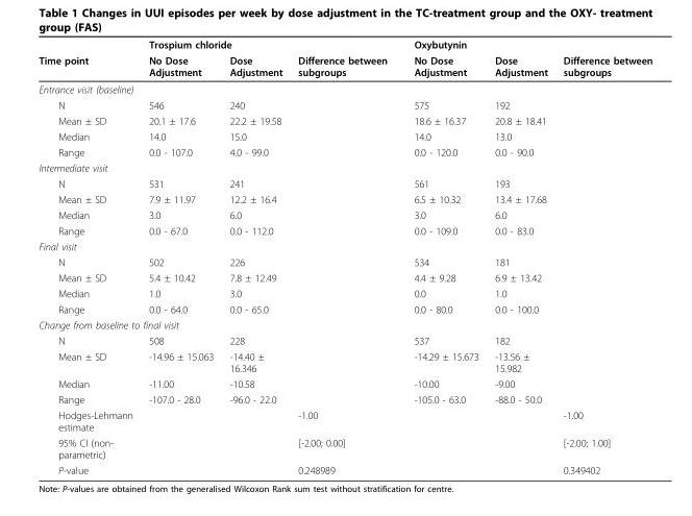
<table><thead><tr><td rowspan="2">Time point</td><td colspan="3">Trospium chloride</td><td colspan="3">Oxybutynin</td></tr><tr><td>No Dose Adjustment</td><td>Dose Adjustment</td><td>Difference between subgroups</td><td>No Dose Adjustment</td><td>Dose Adjustment</td><td>Difference between subgroups</td></tr></thead><tbody><tr><td colspan="7">Entrance visit (baseline)</td></tr><tr><td>N</td><td>546</td><td>240</td><td></td><td>575</td><td>192</td><td></td></tr><tr><td>Mean ± SD</td><td>20.1 ± 17.6</td><td>22.2 ± 19.58</td><td></td><td>18.6 ± 16.37</td><td>20.8 ± 18.41</td><td></td></tr><tr><td>Median</td><td>14.0</td><td>15.0</td><td></td><td>14.0</td><td>13.0</td><td></td></tr><tr><td>Range</td><td>0.0 - 107.0</td><td>4.0 - 99.0</td><td></td><td>0.0 - 120.0</td><td>0.0 - 90.0</td><td></td></tr><tr><td colspan="7">Intermediate visit</td></tr><tr><td>N</td><td>531</td><td>241</td><td></td><td>561</td><td>193</td><td></td></tr><tr><td>Mean ± SD</td><td>7.9 ± 11.97</td><td>12.2 ± 16.4</td><td></td><td>6.5 ± 10.32</td><td>13.4 ± 17.68</td><td></td></tr><tr><td>Median</td><td>3.0</td><td>6.0</td><td></td><td>3.0</td><td>6.0</td><td></td></tr><tr><td>Range</td><td>0.0 - 67.0</td><td>0.0 - 112.0</td><td></td><td>0.0 - 109.0</td><td>0.0 - 83.0</td><td></td></tr><tr><td colspan="7">Final visit</td></tr><tr><td>N</td><td>502</td><td>226</td><td></td><td>534</td><td>181</td><td></td></tr><tr><td>Mean ± SD</td><td>5.4 ± 10.42</td><td>7.8 ± 12.49</td><td></td><td>4.4 ± 9.28</td><td>6.9 ± 13.42</td><td></td></tr><tr><td>Median</td><td>1.0</td><td>3.0</td><td></td><td>0.0</td><td>1.0</td><td></td></tr><tr><td>Range</td><td>0.0 - 64.0</td><td>0.0 - 65.0</td><td></td><td>0.0 - 80.0</td><td>0.0 - 100.0</td><td></td></tr><tr><td colspan="7">Change from baseline to final visit</td></tr><tr><td>N</td><td>508</td><td>228</td><td></td><td>537</td><td>182</td><td></td></tr><tr><td>Mean ± SD</td><td>-14.96 ± 15.063</td><td>-14.40 ± 16.346</td><td></td><td>-14.29 ± 15.673</td><td>-13.56 ± 15.982</td><td></td></tr><tr><td>Median</td><td>-11.00</td><td>-10.58</td><td></td><td>-10.00</td><td>-9.00</td><td></td></tr><tr><td>Range</td><td>-107.0 - 28.0</td><td>-96.0 - 22.0</td><td></td><td>-105.0 - 63.0</td><td>-88.0 - 50.0</td><td></td></tr><tr><td>Hodges-Lehmann estimate</td><td></td><td></td><td>-1.00</td><td></td><td></td><td>-1.00</td></tr><tr><td>95% CI (non- parametric)</td><td></td><td></td><td>[-2.00; 0.00]</td><td></td><td></td><td>[-2.00; 1.00]</td></tr><tr><td>P-value</td><td></td><td></td><td>0.248989</td><td></td><td></td><td>0.349402</td></tr></tbody></table>